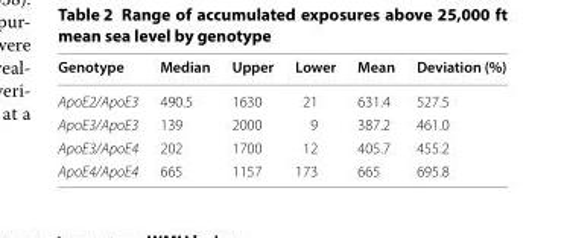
<table><thead><tr><td>Genotype</td><td>Median</td><td>Upper</td><td>Lower</td><td>Mean</td><td>Deviation (%)</td></tr></thead><tbody><tr><td>ApoE2/ApoE3</td><td>490.5</td><td>1630</td><td>21</td><td>631.4</td><td>527.5</td></tr><tr><td>ApoE3/ApoE3</td><td>139</td><td>2000</td><td>9</td><td>387.2</td><td>461.0</td></tr><tr><td>ApoE3/ApoE4</td><td>202</td><td>1700</td><td>12</td><td>405.7</td><td>455.2</td></tr><tr><td>ApoE4/ApoE4</td><td>665</td><td>1157</td><td>173</td><td>665</td><td>695.8</td></tr></tbody></table>